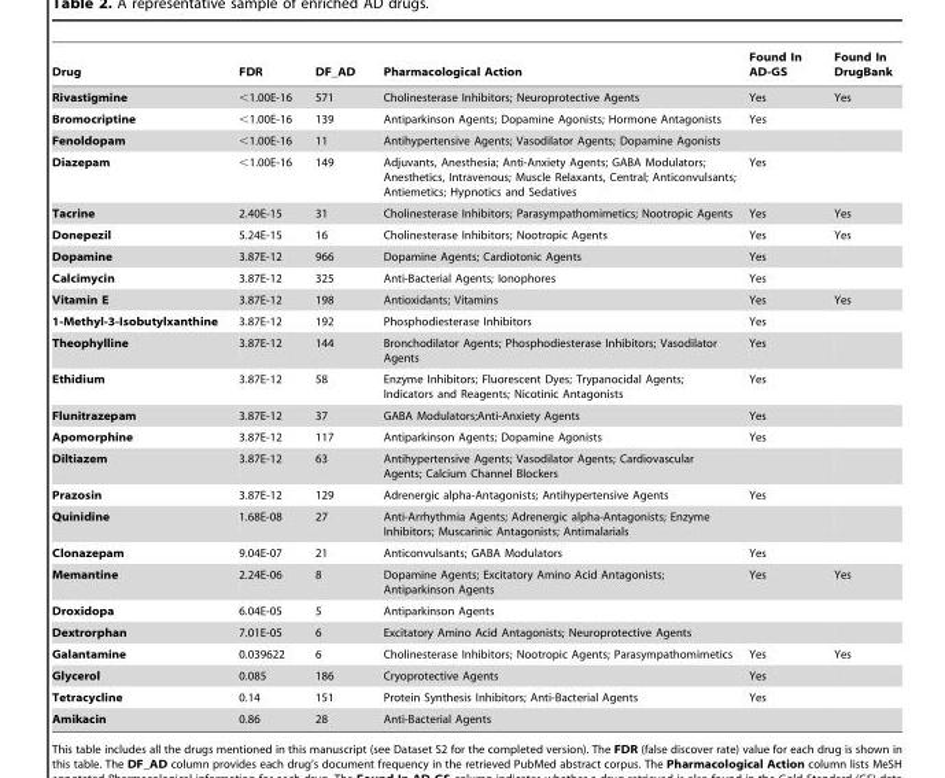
<table><thead><tr><td>Drug</td><td>FDR</td><td>DF_AD</td><td>Pharmacological Action</td><td>Found In AD-GS</td><td>Found In DrugBank</td></tr></thead><tbody><tr><td>Rivastigmine</td><td>&lt;1.00E-16</td><td>571</td><td>Cholinesterase Inhibitors; Neuroprotective Agents</td><td>Yes</td><td>Yes</td></tr><tr><td>Bromocriptine</td><td>&lt;1.00E-16</td><td>139</td><td>Antiparkinson Agents; Dopamine Agonists; Hormone Antagonists</td><td>Yes</td><td></td></tr><tr><td>Fenoldopam</td><td>&lt;1.00E-16</td><td>11</td><td>Antihypertensive Agents; Vasodilator Agents; Dopamine Agonists</td><td></td><td></td></tr><tr><td>Diazepam</td><td>&lt;1.00E-16</td><td>149</td><td>Adjuvants, Anesthesia; Anti-Anxiety Agents; GABA Modulators; Anesthetics, Intravenous; Muscle Relaxants, Central; Anticonvulsants; Antiemetics; Hypnotics and Sedatives</td><td>Yes</td><td></td></tr><tr><td>Tacrine</td><td>2.40E-15</td><td>31</td><td>Cholinesterase Inhibitors; Parasympathomimetics; Nootropic Agents</td><td>Yes</td><td>Yes</td></tr><tr><td>Donepezil</td><td>5.24E-15</td><td>16</td><td>Cholinesterase Inhibitors; Nootropic Agents</td><td>Yes</td><td>Yes</td></tr><tr><td>Dopamine</td><td>3.87E-12</td><td>966</td><td>Dopamine Agents; Cardiotonic Agents</td><td>Yes</td><td></td></tr><tr><td>Calcimycin</td><td>3.87E-12</td><td>325</td><td>Anti-Bacterial Agents; Ionophores</td><td>Yes</td><td></td></tr><tr><td>Vitamin E</td><td>3.87E-12</td><td>198</td><td>Antioxidants; Vitamins</td><td>Yes</td><td>Yes</td></tr><tr><td>1-Methyl-3-Isobutylxanthine</td><td>3.87E-12</td><td>192</td><td>Phosphodiesterase Inhibitors</td><td>Yes</td><td></td></tr><tr><td>Theophylline</td><td>3.87E-12</td><td>144</td><td>Bronchodilator Agents; Phosphodiesterase Inhibitors; Vasodilator Agents</td><td>Yes</td><td></td></tr><tr><td>Ethidium</td><td>3.87E-12</td><td>58</td><td>Enzyme Inhibitors; Fluorescent Dyes; Trypanocidal Agents; Indicators and Reagents; Nicotinic Antagonists</td><td>Yes</td><td></td></tr><tr><td>Flunitrazepam</td><td>3.87E-12</td><td>37</td><td>GABA Modulators;Anti-Anxiety Agents</td><td>Yes</td><td></td></tr><tr><td>Apomorphine</td><td>3.87E-12</td><td>117</td><td>Antiparkinson Agents; Dopamine Agonists</td><td>Yes</td><td></td></tr><tr><td>Diltiazem</td><td>3.87E-12</td><td>63</td><td>Antihypertensive Agents; Vasodilator Agents; Cardiovascular Agents; Calcium Channel Blockers</td><td></td><td></td></tr><tr><td>Prazosin</td><td>3.87E-12</td><td>129</td><td>Adrenergic alpha-Antagonists; Antihypertensive Agents</td><td>Yes</td><td></td></tr><tr><td>Quinidine</td><td>1.68E-08</td><td>27</td><td>Anti-Arrhythmia Agents; Adrenergic alpha-Antagonists; Enzyme Inhibitors; Muscarinic Antagonists; Antimalarials</td><td></td><td></td></tr><tr><td>Clonazepam</td><td>9.04E-07</td><td>21</td><td>Anticonvulsants; GABA Modulators</td><td>Yes</td><td></td></tr><tr><td>Memantine</td><td>2.24E-06</td><td>8</td><td>Dopamine Agents; Excitatory Amino Acid Antagonists; Antiparkinson Agents</td><td>Yes</td><td>Yes</td></tr><tr><td>Droxidopa</td><td>6.04E-05</td><td>5</td><td>Antiparkinson Agents</td><td></td><td></td></tr><tr><td>Dextrorphan</td><td>7.01E-05</td><td>6</td><td>Excitatory Amino Acid Antagonists; Neuroprotective Agents</td><td></td><td></td></tr><tr><td>Galantamine</td><td>0.039622</td><td>6</td><td>Cholinesterase Inhibitors; Nootropic Agents; Parasympathomimetics</td><td>Yes</td><td>Yes</td></tr><tr><td>Glycerol</td><td>0.085</td><td>186</td><td>Cryoprotective Agents</td><td>Yes</td><td></td></tr><tr><td>Tetracycline</td><td>0.14</td><td>151</td><td>Protein Synthesis Inhibitors; Anti-Bacterial Agents</td><td>Yes</td><td></td></tr><tr><td>Amikacin</td><td>0.86</td><td>28</td><td>Anti-Bacterial Agents</td><td></td><td></td></tr></tbody></table>